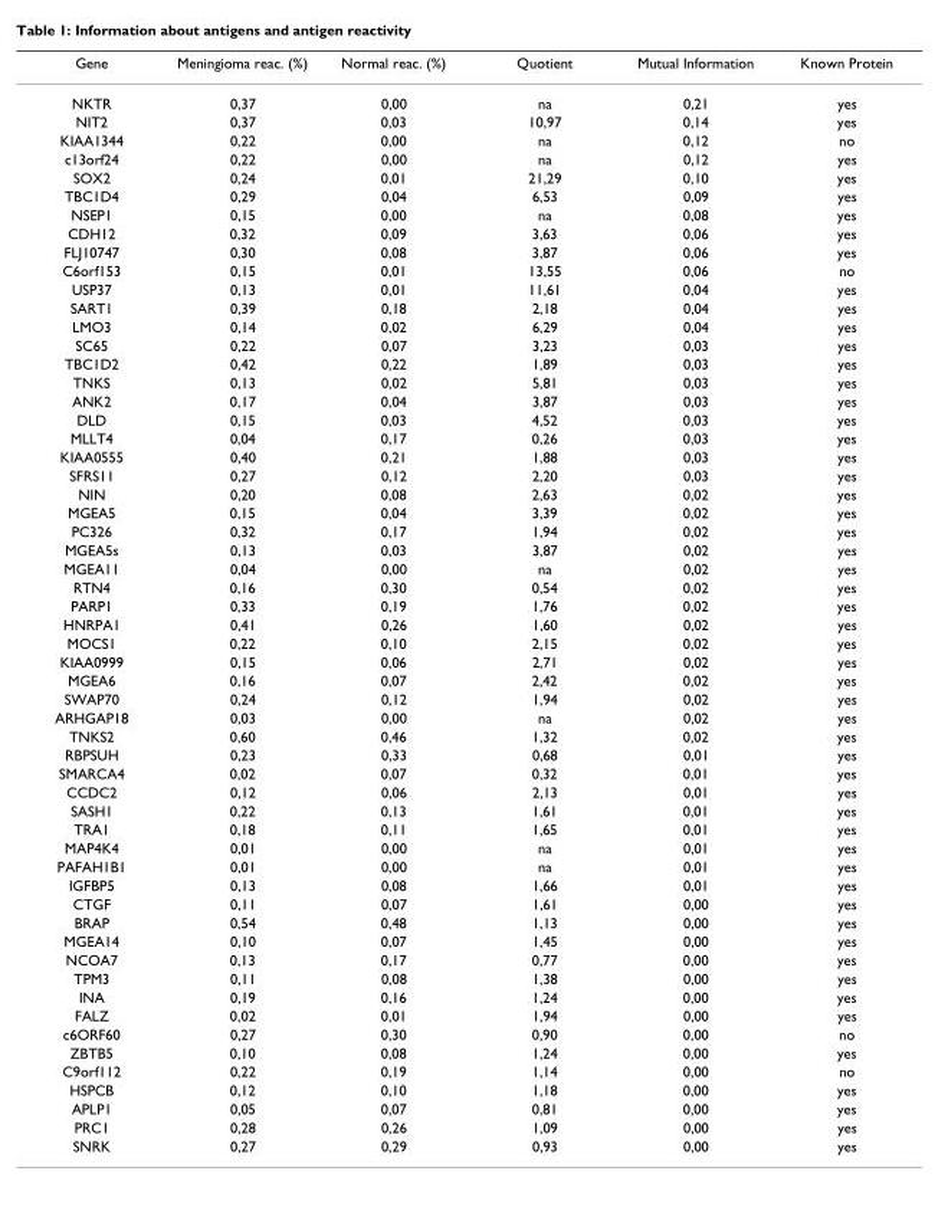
<table><thead><tr><td>Gene</td><td>Meningioma reac. (%)</td><td>Normal reac. (%)</td><td>Quotient</td><td>Mutual Information</td><td>Known Protein</td></tr></thead><tbody><tr><td>NKTR</td><td>0,37</td><td>0,00</td><td>na</td><td>0,21</td><td>yes</td></tr><tr><td>NIT2</td><td>0,37</td><td>0,03</td><td>10,97</td><td>0,14</td><td>yes</td></tr><tr><td>KIAA1344</td><td>0,22</td><td>0,00</td><td>na</td><td>0,12</td><td>no</td></tr><tr><td>c13orf24</td><td>0,22</td><td>0,00</td><td>na</td><td>0,12</td><td>yes</td></tr><tr><td>SOX2</td><td>0,24</td><td>0,01</td><td>21,29</td><td>0,10</td><td>yes</td></tr><tr><td>TBC1D4</td><td>0,29</td><td>0,04</td><td>6,53</td><td>0,09</td><td>yes</td></tr><tr><td>NSEP1</td><td>0,15</td><td>0,00</td><td>na</td><td>0,08</td><td>yes</td></tr><tr><td>CDH12</td><td>0,32</td><td>0,09</td><td>3,63</td><td>0,06</td><td>yes</td></tr><tr><td>FLJ10747</td><td>0,30</td><td>0,08</td><td>3,87</td><td>0,06</td><td>yes</td></tr><tr><td>C6orf153</td><td>0,15</td><td>0,01</td><td>13,55</td><td>0,06</td><td>no</td></tr><tr><td>USP37</td><td>0,13</td><td>0,01</td><td>11,61</td><td>0,04</td><td>yes</td></tr><tr><td>SART1</td><td>0,39</td><td>0,18</td><td>2,18</td><td>0,04</td><td>yes</td></tr><tr><td>LMO3</td><td>0,14</td><td>0,02</td><td>6,29</td><td>0,04</td><td>yes</td></tr><tr><td>SC65</td><td>0,22</td><td>0,07</td><td>3,23</td><td>0,03</td><td>yes</td></tr><tr><td>TBC1D2</td><td>0,42</td><td>0,22</td><td>1,89</td><td>0,03</td><td>yes</td></tr><tr><td>TNKS</td><td>0,13</td><td>0,02</td><td>5,81</td><td>0,03</td><td>yes</td></tr><tr><td>ANK2</td><td>0,17</td><td>0,04</td><td>3,87</td><td>0,03</td><td>yes</td></tr><tr><td>DLD</td><td>0,15</td><td>0,03</td><td>4,52</td><td>0,03</td><td>yes</td></tr><tr><td>MLLT4</td><td>0,04</td><td>0,17</td><td>0,26</td><td>0,03</td><td>yes</td></tr><tr><td>KIAA0555</td><td>0,40</td><td>0,21</td><td>1,88</td><td>0,03</td><td>yes</td></tr><tr><td>SFRS11</td><td>0,27</td><td>0,12</td><td>2,20</td><td>0,03</td><td>yes</td></tr><tr><td>NIN</td><td>0,20</td><td>0,08</td><td>2,63</td><td>0,02</td><td>yes</td></tr><tr><td>MGEA5</td><td>0,15</td><td>0,04</td><td>3,39</td><td>0,02</td><td>yes</td></tr><tr><td>PC326</td><td>0,32</td><td>0,17</td><td>1,94</td><td>0,02</td><td>yes</td></tr><tr><td>MGEA5s</td><td>0,13</td><td>0,03</td><td>3,87</td><td>0,02</td><td>yes</td></tr><tr><td>MGEA11</td><td>0,04</td><td>0,00</td><td>na</td><td>0,02</td><td>yes</td></tr><tr><td>RTN4</td><td>0,16</td><td>0,30</td><td>0,54</td><td>0,02</td><td>yes</td></tr><tr><td>PARP1</td><td>0,33</td><td>0,19</td><td>1,76</td><td>0,02</td><td>yes</td></tr><tr><td>HNRPA1</td><td>0,41</td><td>0,26</td><td>1,60</td><td>0,02</td><td>yes</td></tr><tr><td>MOCS1</td><td>0,22</td><td>0,10</td><td>2,15</td><td>0,02</td><td>yes</td></tr><tr><td>KIAA0999</td><td>0,15</td><td>0,06</td><td>2,71</td><td>0,02</td><td>yes</td></tr><tr><td>MGEA6</td><td>0,16</td><td>0,07</td><td>2,42</td><td>0,02</td><td>yes</td></tr><tr><td>SWAP70</td><td>0,24</td><td>0,12</td><td>1,94</td><td>0,02</td><td>yes</td></tr><tr><td>ARHGAP18</td><td>0,03</td><td>0,00</td><td>na</td><td>0,02</td><td>yes</td></tr><tr><td>TNKS2</td><td>0,60</td><td>0,46</td><td>1,32</td><td>0,02</td><td>yes</td></tr><tr><td>RBPSUH</td><td>0,23</td><td>0,33</td><td>0,68</td><td>0,01</td><td>yes</td></tr><tr><td>SMARCA4</td><td>0,02</td><td>0,07</td><td>0,32</td><td>0,01</td><td>yes</td></tr><tr><td>CCDC2</td><td>0,12</td><td>0,06</td><td>2,13</td><td>0,01</td><td>yes</td></tr><tr><td>SASH1</td><td>0,22</td><td>0,13</td><td>1,61</td><td>0,01</td><td>yes</td></tr><tr><td>TRA1</td><td>0,18</td><td>0,11</td><td>1,65</td><td>0,01</td><td>yes</td></tr><tr><td>MAP4K4</td><td>0,01</td><td>0,00</td><td>na</td><td>0,01</td><td>yes</td></tr><tr><td>PAFAH1B1</td><td>0,01</td><td>0,00</td><td>na</td><td>0,01</td><td>yes</td></tr><tr><td>IGFBP5</td><td>0,13</td><td>0,08</td><td>1,66</td><td>0,01</td><td>yes</td></tr><tr><td>CTGF</td><td>0,11</td><td>0,07</td><td>1,61</td><td>0,00</td><td>yes</td></tr><tr><td>BRAP</td><td>0,54</td><td>0,48</td><td>1,13</td><td>0,00</td><td>yes</td></tr><tr><td>MGEA14</td><td>0,10</td><td>0,07</td><td>1,45</td><td>0,00</td><td>yes</td></tr><tr><td>NCOA7</td><td>0,13</td><td>0,17</td><td>0,77</td><td>0,00</td><td>yes</td></tr><tr><td>TPM3</td><td>0,11</td><td>0,08</td><td>1,38</td><td>0,00</td><td>yes</td></tr><tr><td>INA</td><td>0,19</td><td>0,16</td><td>1,24</td><td>0,00</td><td>yes</td></tr><tr><td>FALZ</td><td>0,02</td><td>0,01</td><td>1,94</td><td>0,00</td><td>yes</td></tr><tr><td>c6ORF60</td><td>0,27</td><td>0,30</td><td>0,90</td><td>0,00</td><td>no</td></tr><tr><td>ZBTB5</td><td>0,10</td><td>0,08</td><td>1,24</td><td>0,00</td><td>yes</td></tr><tr><td>C9orf112</td><td>0,22</td><td>0,19</td><td>1,14</td><td>0,00</td><td>no</td></tr><tr><td>HSPCB</td><td>0,12</td><td>0,10</td><td>1,18</td><td>0,00</td><td>yes</td></tr><tr><td>APLP1</td><td>0,05</td><td>0,07</td><td>0,81</td><td>0,00</td><td>yes</td></tr><tr><td>PRC1</td><td>0,28</td><td>0,26</td><td>1,09</td><td>0,00</td><td>yes</td></tr><tr><td>SNRK</td><td>0,27</td><td>0,29</td><td>0,93</td><td>0,00</td><td>yes</td></tr></tbody></table>